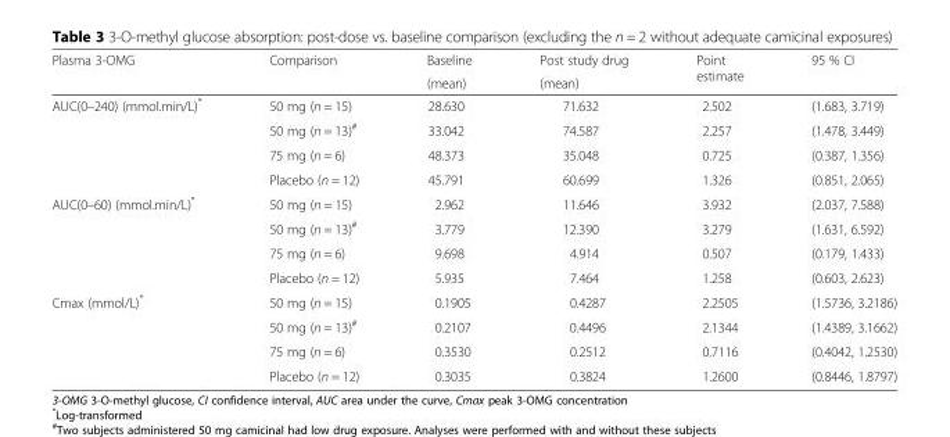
<table><thead><tr><td rowspan="2">Plasma 3-OMG</td><td rowspan="2">Comparison</td><td rowspan="2">Baseline (mean)</td><td rowspan="2">Post study drug (mean)</td><td rowspan="2">Point estimate</td><td rowspan="2">95 % CI</td></tr><tr></tr></thead><tbody><tr><td rowspan="4">AUC(0–240) (mmol.min/L)*</td><td>50 mg (n = 15)</td><td>28.630</td><td>71.632</td><td>2.502</td><td>(1.683, 3.719)</td></tr><tr><td>50 mg (n = 13)<sup>#</sup></td><td>33.042</td><td>74.587</td><td>2.257</td><td>(1.478, 3.449)</td></tr><tr><td>75 mg (n = 6)</td><td>48.373</td><td>35.048</td><td>0.725</td><td>(0.387, 1.356)</td></tr><tr><td>Placebo (n = 12)</td><td>45.791</td><td>60.699</td><td>1.326</td><td>(0.851, 2.065)</td></tr><tr><td rowspan="4">AUC(0–60) (mmol.min/L)*</td><td>50 mg (n = 15)</td><td>2.962</td><td>11.646</td><td>3.932</td><td>(2.037, 7.588)</td></tr><tr><td>50 mg (n = 13)<sup>#</sup></td><td>3.779</td><td>12.390</td><td>3.279</td><td>(1.631, 6.592)</td></tr><tr><td>75 mg (n = 6)</td><td>9.698</td><td>4.914</td><td>0.507</td><td>(0.179, 1.433)</td></tr><tr><td>Placebo (n = 12)</td><td>5.935</td><td>7.464</td><td>1.258</td><td>(0.603, 2.623)</td></tr><tr><td rowspan="4">Cmax (mmol/L)*</td><td>50 mg (n = 15)</td><td>0.1905</td><td>0.4287</td><td>2.2505</td><td>(1.5736, 3.2186)</td></tr><tr><td>50 mg (n = 13)<sup>#</sup></td><td>0.2107</td><td>0.4496</td><td>2.1344</td><td>(1.4389, 3.1662)</td></tr><tr><td>75 mg (n = 6)</td><td>0.3530</td><td>0.2512</td><td>0.7116</td><td>(0.4042, 1.2530)</td></tr><tr><td>Placebo (n = 12)</td><td>0.3035</td><td>0.3824</td><td>1.2600</td><td>(0.8446, 1.8797)</td></tr></tbody></table>